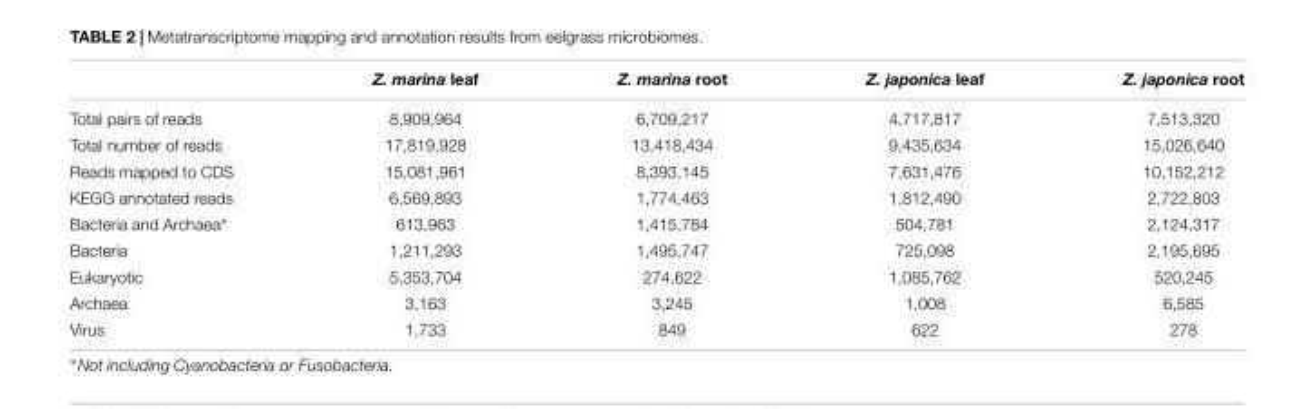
<table><thead><tr><td></td><td>Z. marina leaf</td><td>Z. marina root</td><td>Z. japonica leaf</td><td>Z. japonica root</td></tr></thead><tbody><tr><td>Total pairs of reads</td><td>8,909,964</td><td>6,709,217</td><td>4,717,817</td><td>7,513,320</td></tr><tr><td>Total number of reads</td><td>17,819,928</td><td>13,418,434</td><td>9,435,634</td><td>15,026,640</td></tr><tr><td>Reads mapped to CDS</td><td>15,081,961</td><td>8,393,145</td><td>7,631,476</td><td>10,152,212</td></tr><tr><td>KEGG annotated reads</td><td>6,569,893</td><td>1,774,463</td><td>1,812,490</td><td>2,722,803</td></tr><tr><td>Bacteria and Archaea∗</td><td>613,963</td><td>1,415,784</td><td>504,781</td><td>2,124,317</td></tr><tr><td>Bacteria</td><td>1,211,293</td><td>1,495,747</td><td>725,098</td><td>2,195,695</td></tr><tr><td>Eukaryotic</td><td>5,353,704</td><td>274,622</td><td>1,085,762</td><td>520,245</td></tr><tr><td>Archaea</td><td>3,163</td><td>3,245</td><td>1,008</td><td>6,585</td></tr><tr><td>Virus</td><td>1,733</td><td>849</td><td>622</td><td>278</td></tr></tbody></table>